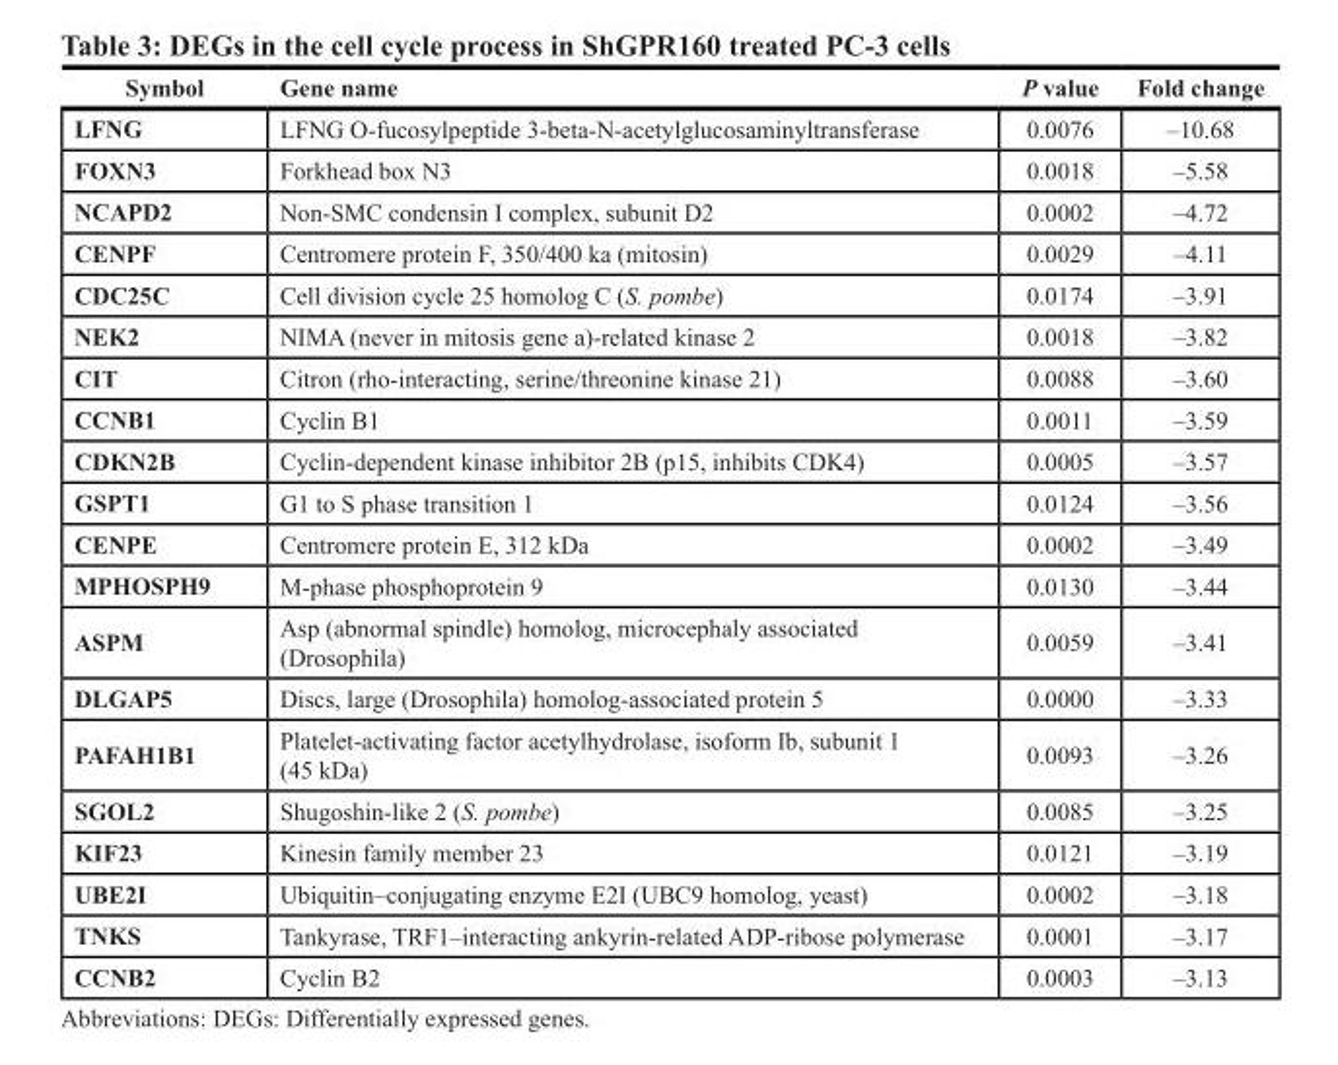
<table><thead><tr><td>Symbol</td><td>Gene name</td><td>P value</td><td>Fold change</td></tr></thead><tbody><tr><td>LFNG</td><td>LFNG O-fucosylpeptide 3-beta-N-acetylglucosaminyltransferase</td><td>0.0076</td><td>–10.68</td></tr><tr><td>FOXN3</td><td>Forkhead box N3</td><td>0.0018</td><td>–5.58</td></tr><tr><td>NCAPD2</td><td>Non-SMC condensin I complex, subunit D2</td><td>0.0002</td><td>–4.72</td></tr><tr><td>CENPF</td><td>Centromere protein F, 350/400 ka (mitosin)</td><td>0.0029</td><td>–4.11</td></tr><tr><td>CDC25C</td><td>Cell division cycle 25 homolog C (S. pombe)</td><td>0.0174</td><td>–3.91</td></tr><tr><td>NEK2</td><td>NIMA (never in mitosis gene a)-related kinase 2</td><td>0.0018</td><td>–3.82</td></tr><tr><td>CIT</td><td>Citron (rho-interacting, serine/threonine kinase 21)</td><td>0.0088</td><td>–3.60</td></tr><tr><td>CCNB1</td><td>Cyclin B1</td><td>0.0011</td><td>–3.59</td></tr><tr><td>CDKN2B</td><td>Cyclin-dependent kinase inhibitor 2B (p15, inhibits CDK4)</td><td>0.0005</td><td>–3.57</td></tr><tr><td>GSPT1</td><td>G<sub>1</sub> to S phase transition 1</td><td>0.0124</td><td>–3.56</td></tr><tr><td>CENPE</td><td>Centromere protein E, 312 kDa</td><td>0.0002</td><td>–3.49</td></tr><tr><td>MPHOSPH9</td><td>M-phase phosphoprotein 9</td><td>0.0130</td><td>–3.44</td></tr><tr><td>ASPM</td><td>Asp (abnormal spindle) homolog, microcephaly associated (Drosophila)</td><td>0.0059</td><td>–3.41</td></tr><tr><td>DLGAP5</td><td>Discs, large (Drosophila) homolog-associated protein 5</td><td>0.0000</td><td>–3.33</td></tr><tr><td>PAFAH1B1</td><td>Platelet-activating factor acetylhydrolase, isoform Ib, subunit 1 (45 kDa)</td><td>0.0093</td><td>–3.26</td></tr><tr><td>SGOL2</td><td>Shugoshin-like 2 (S. pombe)</td><td>0.0085</td><td>–3.25</td></tr><tr><td>KIF23</td><td>Kinesin family member 23</td><td>0.0121</td><td>–3.19</td></tr><tr><td>UBE2I</td><td>Ubiquitin–conjugating enzyme E2I (UBC9 homolog, yeast)</td><td>0.0002</td><td>–3.18</td></tr><tr><td>TNKS</td><td>Tankyrase, TRF1–interacting ankyrin-related ADP-ribose polymerase</td><td>0.0001</td><td>–3.17</td></tr><tr><td>CCNB2</td><td>Cyclin B2</td><td>0.0003</td><td>–3.13</td></tr></tbody></table>